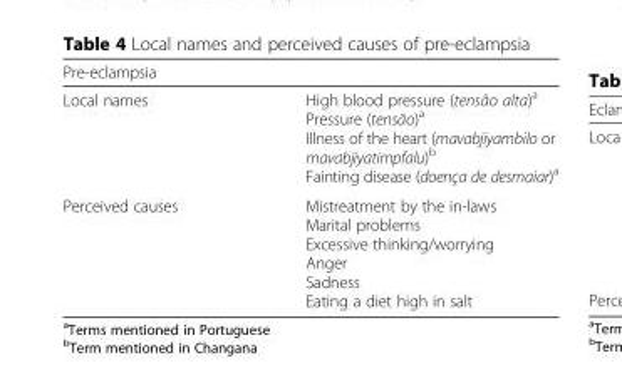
<table><thead><tr><td colspan="2">Pre-eclampsia</td></tr><tr><td>Local names</td><td>High blood pressure (tensão alta)<sup>a</sup> Pressure (tensão)<sup>a</sup> Illness of the heart (mavabjiyambilo or mavabjiyatimpfalu)<sup>b</sup> Fainting disease (doença de desmaiar)<sup>a</sup></td></tr></thead><tbody><tr><td>Perceived causes</td><td>Mistreatment by the in-laws Marital problems Excessive thinking/worrying Anger Sadness Eating a diet high in salt</td></tr></tbody></table>